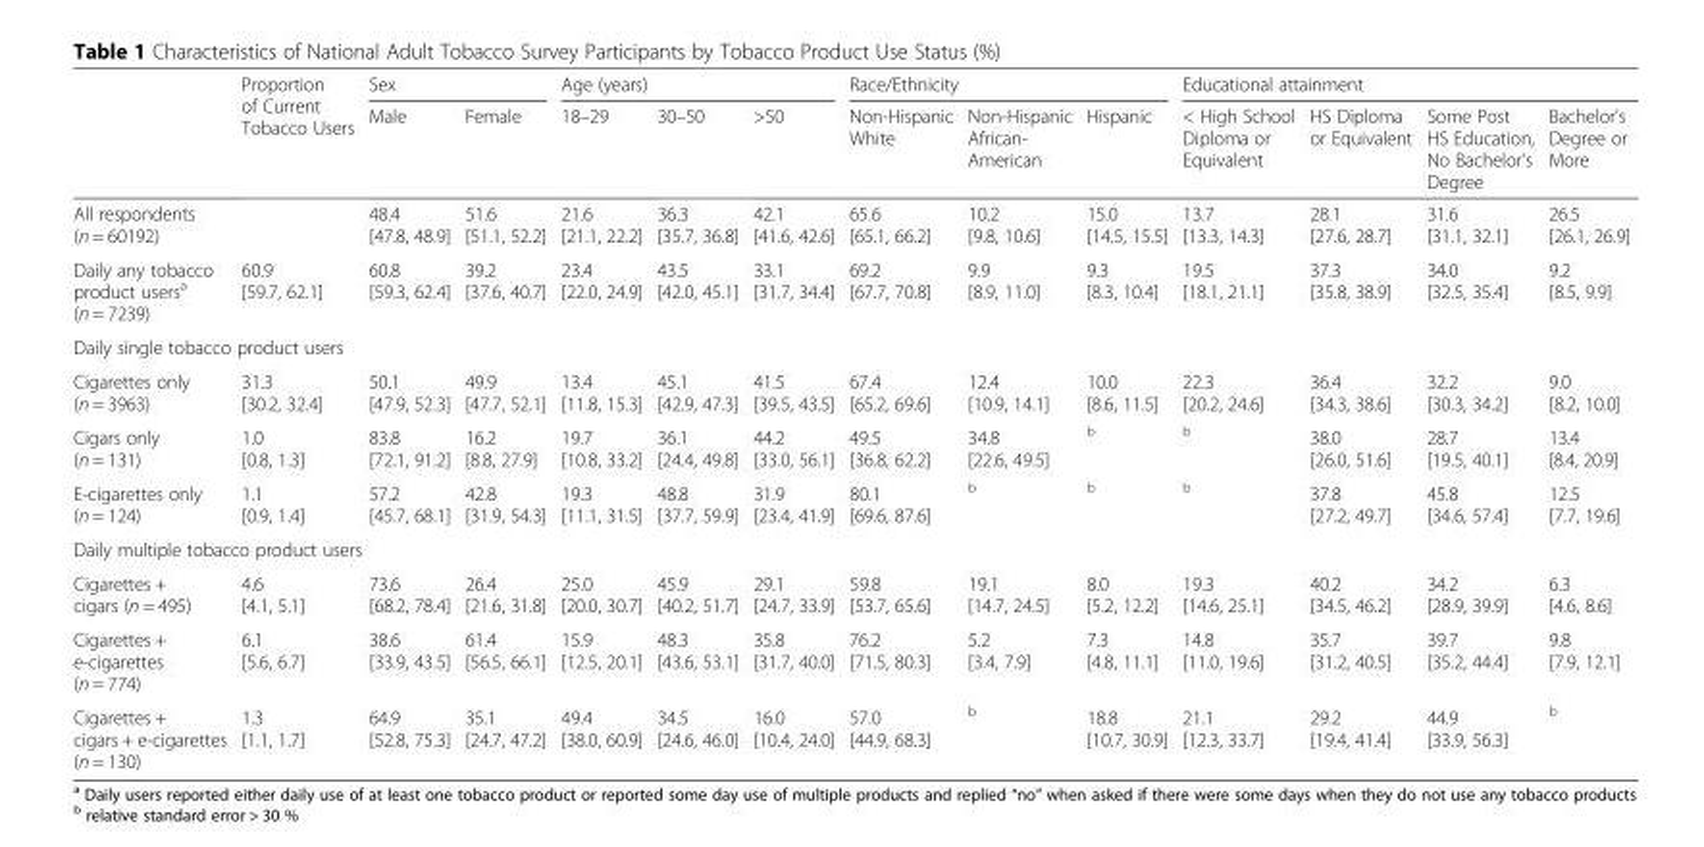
<table><thead><tr><td rowspan="2"></td><td rowspan="2">Proportion of Current Tobacco Users</td><td colspan="2">Sex</td><td colspan="3">Age (years)</td><td colspan="3">Race/Ethnicity</td><td colspan="4">Educational attainment</td></tr><tr><td>Male</td><td>Female</td><td>18–29</td><td>30–50</td><td>&gt;50</td><td>Non-Hispanic White</td><td>Non-Hispanic African- American</td><td>Hispanic</td><td>&lt; High School Diploma or Equivalent</td><td>HS Diploma or Equivalent</td><td>Some Post HS Education, No Bachelor’s Degree</td><td>Bachelor&#x27;s Degree or More</td></tr></thead><tbody><tr><td>All respondents (n = 60192)</td><td></td><td>48.4 [47.8, 48.9]</td><td>51.6 [51.1, 52.2]</td><td>21.6 [21.1, 22.2]</td><td>36.3 [35.7, 36.8]</td><td>42.1 [41.6, 42.6]</td><td>65.6 [65.1, 66.2]</td><td>10.2 [9.8, 10.6]</td><td>15.0 [14.5, 15.5]</td><td>13.7 [13.3, 14.3]</td><td>28.1 [27.6, 28.7]</td><td>31.6 [31.1, 32.1]</td><td>26.5 [26.1, 26.9]</td></tr><tr><td>Daily any tobacco product users<sup>a</sup> (n = 7239)</td><td>60.9 [59.7, 62.1]</td><td>60.8 [59.3, 62.4]</td><td>39.2 [37.6, 40.7]</td><td>23.4 [22.0, 24.9]</td><td>43.5 [42.0, 45.1]</td><td>33.1 [31.7, 34.4]</td><td>69.2 [67.7, 70.8]</td><td>9.9 [8.9, 11.0]</td><td>9.3 [8.3, 10.4]</td><td>19.5 [18.1, 21.1]</td><td>37.3 [35.8, 38.9]</td><td>34.0 [32.5, 35.4]</td><td>9.2 [8.5, 9.9]</td></tr><tr><td colspan="14">Daily single tobacco product users</td></tr><tr><td>Cigarettes only (n = 3963)</td><td>31.3 [30.2, 32.4]</td><td>50.1 [47.9, 52.3]</td><td>49.9 [47.7, 52.1]</td><td>13.4 [11.8, 15.3]</td><td>45.1 [42.9, 47.3]</td><td>41.5 [39.5, 43.5]</td><td>67.4 [65.2, 69.6]</td><td>12.4 [10.9, 14.1]</td><td>10.0 [8.6, 11.5]</td><td>22.3 [20.2, 24.6]</td><td>36.4 [34.3, 38.6]</td><td>32.2 [30.3, 34.2]</td><td>9.0 [8.2, 10.0]</td></tr><tr><td>Cigars only (n = 131)</td><td>1.0 [0.8, 1.3]</td><td>83.8 [72.1, 91.2]</td><td>16.2 [8.8, 27.9]</td><td>19.7 [10.8, 33.2]</td><td>36.1 [24.4, 49.8]</td><td>44.2 [33.0, 56.1]</td><td>49.5 [36.8, 62.2]</td><td>34.8 [22.6, 49.5]</td><td><sup>b</sup></td><td><sup>b</sup></td><td>38.0 [26.0, 51.6]</td><td>28.7 [19.5, 40.1]</td><td>13.4 [8.4, 20.9]</td></tr><tr><td>E-cigarettes only (n = 124)</td><td>1.1 [0.9, 1.4]</td><td>57.2 [45.7, 68.1]</td><td>42.8 [31.9, 54.3]</td><td>19.3 [11.1, 31.5]</td><td>48.8 [37.7, 59.9]</td><td>31.9 [23.4, 41.9]</td><td>80.1 [69.6, 87.6]</td><td><sup>b</sup></td><td><sup>b</sup></td><td><sup>b</sup></td><td>37.8 [27.2, 49.7]</td><td>45.8 [34.6, 57.4]</td><td>12.5 [7.7, 19.6]</td></tr><tr><td colspan="14">Daily multiple tobacco product users</td></tr><tr><td>Cigarettes + cigars (n = 495)</td><td>4.6 [4.1, 5.1]</td><td>73.6 [68.2, 78.4]</td><td>26.4 [21.6, 31.8]</td><td>25.0 [20.0, 30.7]</td><td>45.9 [40.2, 51.7]</td><td>29.1 [24.7, 33.9]</td><td>59.8 [53.7, 65.6]</td><td>19.1 [14.7, 24.5]</td><td>8.0 [5.2, 12.2]</td><td>19.3 [14.6, 25.1]</td><td>40.2 [34.5, 46.2]</td><td>34.2 [28.9, 39.9]</td><td>6.3 [4.6, 8.6]</td></tr><tr><td>Cigarettes + e-cigarettes (n = 774)</td><td>6.1 [5.6, 6.7]</td><td>38.6 [33.9, 43.5]</td><td>61.4 [56.5, 66.1]</td><td>15.9 [12.5, 20.1]</td><td>48.3 [43.6, 53.1]</td><td>35.8 [31.7, 40.0]</td><td>76.2 [71.5, 80.3]</td><td>5.2 [3.4, 7.9]</td><td>7.3 [4.8, 11.1]</td><td>14.8 [11.0, 19.6]</td><td>35.7 [31.2, 40.5]</td><td>39.7 [35.2, 44.4]</td><td>9.8 [7.9, 12.1]</td></tr><tr><td>Cigarettes + cigars + e-cigarettes (n = 130)</td><td>1.3 [1.1, 1.7]</td><td>64.9 [52.8, 75.3]</td><td>35.1 [24.7, 47.2]</td><td>49.4 [38.0, 60.9]</td><td>34.5 [24.6, 46.0]</td><td>16.0 [10.4, 24.0]</td><td>57.0 [44.9, 68.3]</td><td><sup>b</sup></td><td>18.8 [10.7, 30.9]</td><td>21.1 [12.3, 33.7]</td><td>29.2 [19.4, 41.4]</td><td>44.9 [33.9, 56.3]</td><td><sup>b</sup></td></tr></tbody></table>